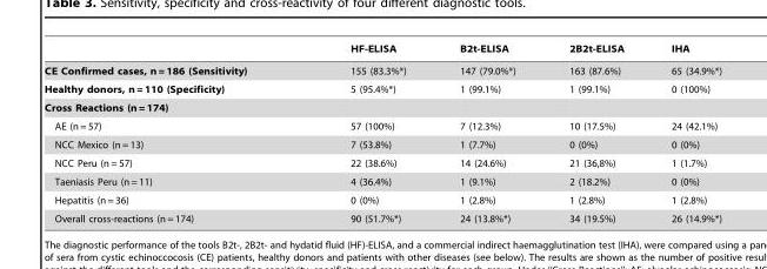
<table><thead><tr><td></td><td>HF-ELISA</td><td>B2t-ELISA</td><td>2B2t-ELISA</td><td>IHA</td></tr></thead><tbody><tr><td>CE Confirmed cases, n = 186 (Sensitivity)</td><td>155 (83.3%*)</td><td>147 (79.0%*)</td><td>163 (87.6%)</td><td>65 (34.9%*)</td></tr><tr><td>Healthy donors, n = 110 (Specificity)</td><td>5 (95.4%*)</td><td>1 (99.1%)</td><td>1 (99.1%)</td><td>0 (100%)</td></tr><tr><td colspan="5">Cross Reactions (n = 174)</td></tr><tr><td>AE (n = 57)</td><td>57 (100%)</td><td>7 (12.3%)</td><td>10 (17.5%)</td><td>24 (42.1%)</td></tr><tr><td>NCC Mexico (n = 13)</td><td>7 (53.8%)</td><td>1 (7.7%)</td><td>0 (0%)</td><td>0 (0%)</td></tr><tr><td>NCC Peru (n = 57)</td><td>22 (38.6%)</td><td>14 (24.6%)</td><td>21 (36,8%)</td><td>1 (1.7%)</td></tr><tr><td>Taeniasis Peru (n = 11)</td><td>4 (36.4%)</td><td>1 (9.1%)</td><td>2 (18.2%)</td><td>0 (0%)</td></tr><tr><td>Hepatitis (n = 36)</td><td>0 (0%)</td><td>1 (2.8%)</td><td>1 (2.8%)</td><td>1 (2.8%)</td></tr><tr><td>Overall cross-reactions (n = 174)</td><td>90 (51.7%*)</td><td>24 (13.8%*)</td><td>34 (19.5%)</td><td>26 (14.9%*)</td></tr></tbody></table>